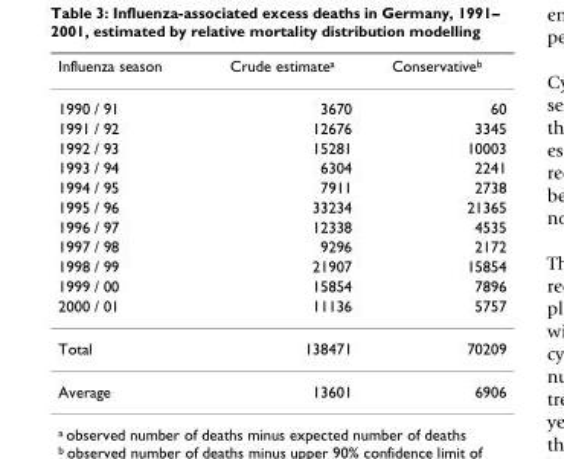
<table><thead><tr><td>Influenza season</td><td>Crude estimate<sup>a</sup></td><td>Conservative<sup>b</sup></td></tr></thead><tbody><tr><td>1990 / 91</td><td>3670</td><td>60</td></tr><tr><td>1991 / 92</td><td>12676</td><td>3345</td></tr><tr><td>1992 / 93</td><td>15281</td><td>10003</td></tr><tr><td>1993 / 94</td><td>6304</td><td>2241</td></tr><tr><td>1994 / 95</td><td>7911</td><td>2738</td></tr><tr><td>1995 / 96</td><td>33234</td><td>21365</td></tr><tr><td>1996 / 97</td><td>12338</td><td>4535</td></tr><tr><td>1997 / 98</td><td>9296</td><td>2172</td></tr><tr><td>1998 / 99</td><td>21907</td><td>15854</td></tr><tr><td>1999 / 00</td><td>15854</td><td>7896</td></tr><tr><td>2000 / 01</td><td>11136</td><td>5757</td></tr><tr><td>Total</td><td>138471</td><td>70209</td></tr><tr><td>Average</td><td>13601</td><td>6906</td></tr></tbody></table>